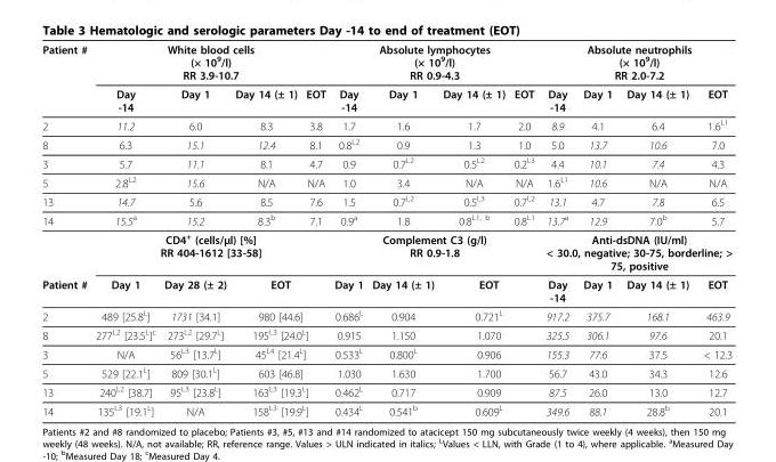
<table><thead><tr><td rowspan="2">Patient #</td><td colspan="4">White blood cells (× 10<sup>9</sup>/l) RR 3.9-10.7</td><td colspan="4">Absolute lymphocytes (× 10<sup>9</sup>/l) RR 0.9-4.3</td><td colspan="4">Absolute neutrophils (× 10<sup>9</sup>/l) RR 2.0-7.2</td></tr><tr><td>Day -14</td><td>Day 1</td><td>Day 14 (± 1)</td><td>EOT</td><td>Day -14</td><td>Day 1</td><td>Day 14 (± 1)</td><td>EOT</td><td>Day -14</td><td>Day 1</td><td>Day 14 (± 1)</td><td>EOT</td></tr></thead><tbody><tr><td>2</td><td>11.2</td><td>6.0</td><td>8.3</td><td>3.8</td><td>1.7</td><td>1.6</td><td>1.7</td><td>2.0</td><td>8.9</td><td>4.1</td><td>6.4</td><td>1.6<sup>L1</sup></td></tr><tr><td>8</td><td>6.3</td><td>15.1</td><td>12.4</td><td>8.1</td><td>0.8<sup>L2</sup></td><td>0.9</td><td>1.3</td><td>1.0</td><td>5.0</td><td>13.7</td><td>10.6</td><td>7.0</td></tr><tr><td>3</td><td>5.7</td><td>11.1</td><td>8.1</td><td>4.7</td><td>0.9</td><td>0.7<sup>L2</sup></td><td>0.5<sup>L2</sup></td><td>0.2<sup>L3</sup></td><td>4.4</td><td>10.1</td><td>7.4</td><td>4.3</td></tr><tr><td>5</td><td>2.8<sup>L2</sup></td><td>15.6</td><td>N/A</td><td>N/A</td><td>1.0</td><td>3.4</td><td>N/A</td><td>N/A</td><td>1.6<sup>L1</sup></td><td>10.6</td><td>N/A</td><td>N/A</td></tr><tr><td>13</td><td>14.7</td><td>5.6</td><td>8.5</td><td>7.6</td><td>1.5</td><td>0.7<sup>L2</sup></td><td>0.5<sup>L3</sup></td><td>0.7<sup>L2</sup></td><td>13.1</td><td>4.7</td><td>7.8</td><td>6.5</td></tr><tr><td rowspan="2">14</td><td>15.5<sup>a</sup></td><td>15.2</td><td>8.3<sup>b</sup></td><td>7.1</td><td>0.9<sup>a</sup></td><td>1.8</td><td>0.8<sup>L1, b</sup></td><td>0.8<sup>L1</sup></td><td>13.7<sup>a</sup></td><td>12.9</td><td>7.0<sup>b</sup></td><td>5.7</td></tr><tr><td colspan="4">CD4<sup>+</sup> (cells/μl) [%] RR 404-1612 [33-58]</td><td colspan="4">Complement C3 (g/l) RR 0.9-1.8</td><td colspan="4">Anti-dsDNA (IU/ml) &lt; 30.0, negative; 30-75, borderline; &gt; 75, positive</td></tr><tr><td>Patient #</td><td>Day 1</td><td>Day 28 (± 2)</td><td colspan="2">EOT</td><td>Day 1</td><td>Day 14 (± 1)</td><td colspan="2">EOT</td><td>Day -14</td><td>Day 1</td><td>Day 14 (± 1)</td><td>EOT</td></tr><tr><td>2</td><td>489 [25.8<sup>L</sup>]</td><td>1731 [34.1]</td><td colspan="2">980 [44.6]</td><td>0.686<sup>L</sup></td><td>0.904</td><td colspan="2">0.721<sup>L</sup></td><td>917.2</td><td>375.7</td><td>168.1</td><td>463.9</td></tr><tr><td>8</td><td>277<sup>L2</sup> [23.5<sup>L</sup>]<sup>c</sup></td><td>273<sup>L2</sup> [29.7<sup>L</sup>]</td><td colspan="2">195<sup>L3</sup> [24.0<sup>L</sup>]</td><td>0.915</td><td>1.150</td><td colspan="2">1.070</td><td>325.5</td><td>306.1</td><td>97.6</td><td>20.1</td></tr><tr><td>3</td><td>N/A</td><td>56<sup>L3</sup> [13.7<sup>L</sup>]</td><td colspan="2">45<sup>L4</sup> [21.4<sup>L</sup>]</td><td>0.533<sup>L</sup></td><td>0.800<sup>L</sup></td><td colspan="2">0.906</td><td>155.3</td><td>77.6</td><td>37.5</td><td>&lt; 12.3</td></tr><tr><td>5</td><td>529 [22.1<sup>L</sup>]</td><td>809 [30.1<sup>L</sup>]</td><td colspan="2">603 [46.8]</td><td>1.030</td><td>1.630</td><td colspan="2">1.700</td><td>56.7</td><td>43.0</td><td>34.3</td><td>12.6</td></tr><tr><td>13</td><td>240<sup>L2</sup> [38.7]</td><td>95<sup>L3</sup> [23.8<sup>L</sup>]</td><td colspan="2">163<sup>L3</sup> [19.3<sup>L</sup>]</td><td>0.462<sup>L</sup></td><td>0.717</td><td colspan="2">0.909</td><td>87.5</td><td>26.0</td><td>13.0</td><td>12.7</td></tr><tr><td>14</td><td>135<sup>L3</sup> [19.1<sup>L</sup>]</td><td>N/A</td><td colspan="2">158<sup>L3</sup> [19.9<sup>L</sup>]</td><td>0.434<sup>L</sup></td><td>0.541<sup>b</sup></td><td colspan="2">0.609<sup>L</sup></td><td>349.6</td><td>88.1</td><td>28.8<sup>b</sup></td><td>20.1</td></tr></tbody></table>